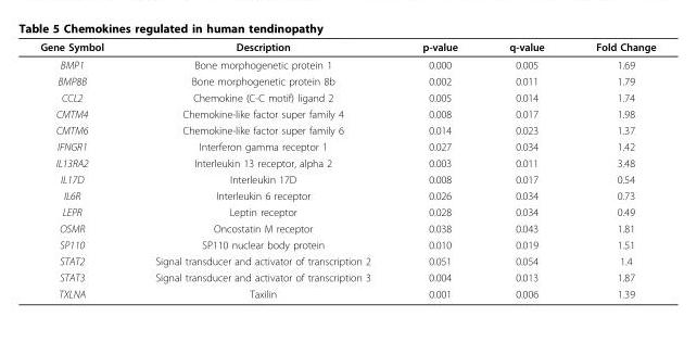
<table><thead><tr><td>Gene Symbol</td><td>Description</td><td>p-value</td><td>q-value</td><td>Fold Change</td></tr></thead><tbody><tr><td>BMP1</td><td>Bone morphogenetic protein 1</td><td>0.000</td><td>0.005</td><td>1.69</td></tr><tr><td>BMP8B</td><td>Bone morphogenetic protein 8b</td><td>0.002</td><td>0.011</td><td>1.79</td></tr><tr><td>CCL2</td><td>Chemokine (C-C motif) ligand 2</td><td>0.005</td><td>0.014</td><td>1.74</td></tr><tr><td>CMTM4</td><td>Chemokine-like factor super family 4</td><td>0.008</td><td>0.017</td><td>1.98</td></tr><tr><td>CMTM6</td><td>Chemokine-like factor super family 6</td><td>0.014</td><td>0.023</td><td>1.37</td></tr><tr><td>IFNGR1</td><td>Interferon gamma receptor 1</td><td>0.027</td><td>0.034</td><td>1.42</td></tr><tr><td>IL13RA2</td><td>Interleukin 13 receptor, alpha 2</td><td>0.003</td><td>0.011</td><td>3.48</td></tr><tr><td>IL17D</td><td>Interleukin 17D</td><td>0.008</td><td>0.017</td><td>0.54</td></tr><tr><td>IL6R</td><td>Interleukin 6 receptor</td><td>0.026</td><td>0.034</td><td>0.73</td></tr><tr><td>LEPR</td><td>Leptin receptor</td><td>0.028</td><td>0.034</td><td>0.49</td></tr><tr><td>OSMR</td><td>Oncostatin M receptor</td><td>0.038</td><td>0.043</td><td>1.81</td></tr><tr><td>SP110</td><td>SP110 nuclear body protein</td><td>0.010</td><td>0.019</td><td>1.51</td></tr><tr><td>STAT2</td><td>Signal transducer and activator of transcription 2</td><td>0.051</td><td>0.054</td><td>1.4</td></tr><tr><td>STAT3</td><td>Signal transducer and activator of transcription 3</td><td>0.004</td><td>0.013</td><td>1.87</td></tr><tr><td>TXLNA</td><td>Taxilin</td><td>0.001</td><td>0.006</td><td>1.39</td></tr></tbody></table>